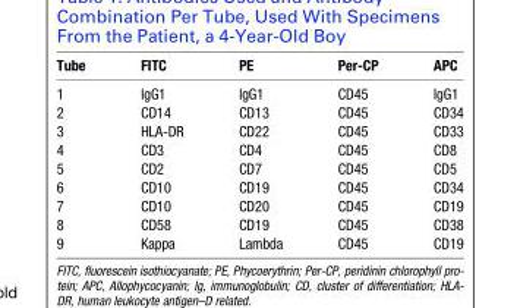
<table><thead><tr><td>Tube</td><td>FITC</td><td>PE</td><td>Per-CP</td><td>APC</td></tr></thead><tbody><tr><td>1</td><td>IgG1</td><td>IgG1</td><td>CD45</td><td>IgG1</td></tr><tr><td>2</td><td>CD14</td><td>CD13</td><td>CD45</td><td>CD34</td></tr><tr><td>3</td><td>HLA-DR</td><td>CD22</td><td>CD45</td><td>CD33</td></tr><tr><td>4</td><td>CD3</td><td>CD4</td><td>CD45</td><td>CD8</td></tr><tr><td>5</td><td>CD2</td><td>CD7</td><td>CD45</td><td>CD5</td></tr><tr><td>6</td><td>CD10</td><td>CD19</td><td>CD45</td><td>CD34</td></tr><tr><td>7</td><td>CD10</td><td>CD20</td><td>CD45</td><td>CD19</td></tr><tr><td>8</td><td>CD58</td><td>CD19</td><td>CD45</td><td>CD38</td></tr><tr><td>9</td><td>Kappa</td><td>Lambda</td><td>CD45</td><td>CD19</td></tr></tbody></table>